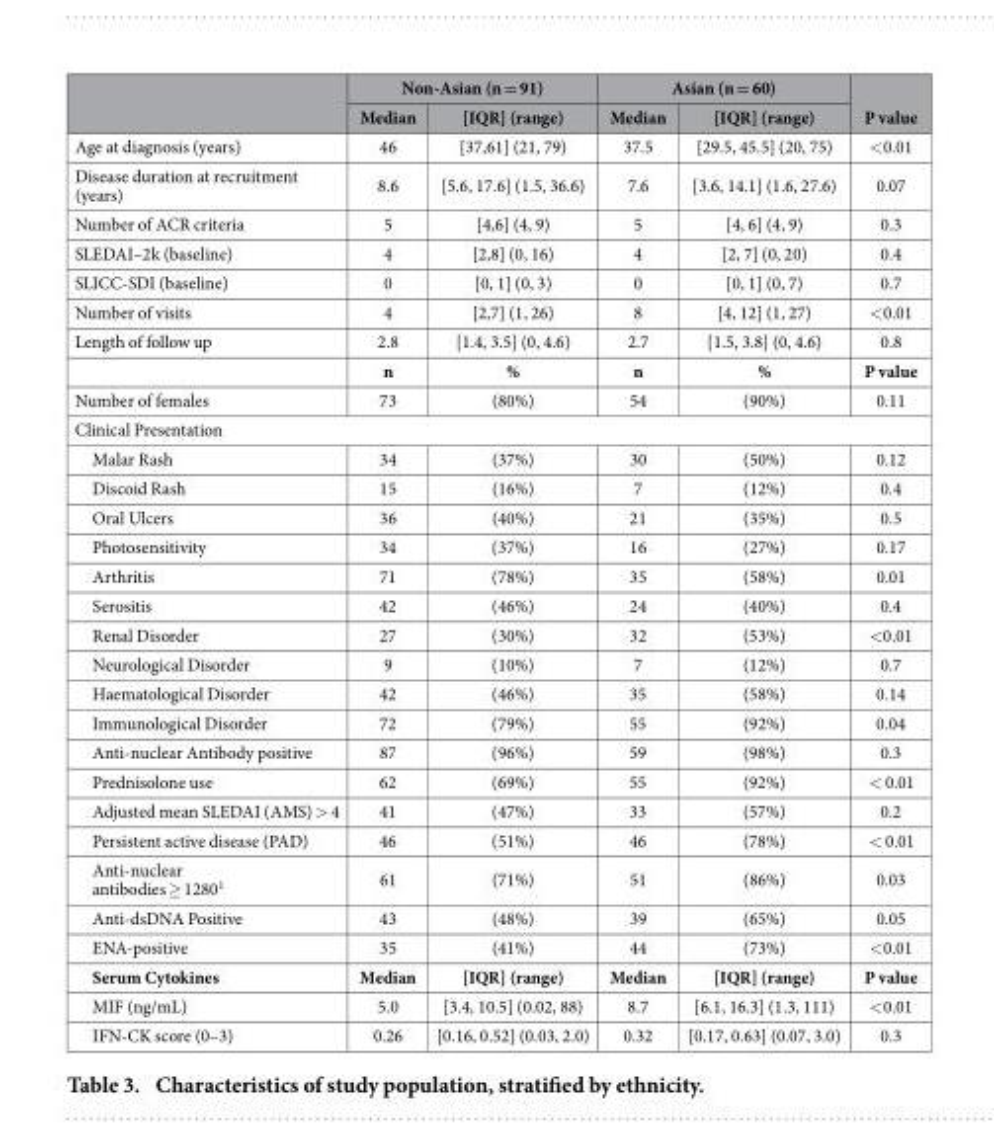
<table><thead><tr><td rowspan="2"></td><td colspan="2">Non-Asian (n = 91)</td><td colspan="2">Asian (n = 60)</td><td rowspan="2">P value</td></tr><tr><td>Median</td><td>[IQR] (range)</td><td>Median</td><td>[IQR] (range)</td></tr></thead><tbody><tr><td>Age at diagnosis (years)</td><td>46</td><td>[37,61] (21, 79)</td><td>37.5</td><td>[29.5, 45.5] (20, 75)</td><td>&lt; 0.01</td></tr><tr><td>Disease duration at recruitment (years)</td><td>8.6</td><td>[5.6, 17.6] (1.5, 36.6)</td><td>7.6</td><td>[3.6, 14.1] (1.6, 27.6)</td><td>0.07</td></tr><tr><td>Number of ACR criteria</td><td>5</td><td>[4,6] (4, 9)</td><td>5</td><td>[4, 6] (4, 9)</td><td>0.3</td></tr><tr><td>SLEDAI–2k (baseline)</td><td>4</td><td>[2,8] (0, 16)</td><td>4</td><td>[2, 7] (0, 20)</td><td>0.4</td></tr><tr><td>SLICC-SDI (baseline)</td><td>0</td><td>[0, 1] (0, 3)</td><td>0</td><td>[0, 1] (0, 7)</td><td>0.7</td></tr><tr><td>Number of visits</td><td>4</td><td>[2,7] (1, 26)</td><td>8</td><td>[4, 12] (1, 27)</td><td>&lt; 0.01</td></tr><tr><td rowspan="2">Length of follow up</td><td>2.8</td><td>[1.4, 3.5] (0, 4.6)</td><td>2.7</td><td>[1.5, 3.8] (0, 4.6)</td><td>0.8</td></tr><tr><td>n</td><td>%</td><td>n</td><td>%</td><td>P value</td></tr><tr><td>Number of females</td><td>73</td><td>(80%)</td><td>54</td><td>(90%)</td><td>0.11</td></tr><tr><td colspan="6">Clinical Presentation</td></tr><tr><td>Malar Rash</td><td>34</td><td>(37%)</td><td>30</td><td>(50%)</td><td>0.12</td></tr><tr><td>Discoid Rash</td><td>15</td><td>(16%)</td><td>7</td><td>(12%)</td><td>0.4</td></tr><tr><td>Oral Ulcers</td><td>36</td><td>(40%)</td><td>21</td><td>(35%)</td><td>0.5</td></tr><tr><td>Photosensitivity</td><td>34</td><td>(37%)</td><td>16</td><td>(27%)</td><td>0.17</td></tr><tr><td>Arthritis</td><td>71</td><td>(78%)</td><td>35</td><td>(58%)</td><td>0.01</td></tr><tr><td>Serositis</td><td>42</td><td>(46%)</td><td>24</td><td>(40%)</td><td>0.4</td></tr><tr><td>Renal Disorder</td><td>27</td><td>(30%)</td><td>32</td><td>(53%)</td><td>&lt; 0.01</td></tr><tr><td>Neurological Disorder</td><td>9</td><td>(10%)</td><td>7</td><td>(12%)</td><td>0.7</td></tr><tr><td>Haematological Disorder</td><td>42</td><td>(46%)</td><td>35</td><td>(58%)</td><td>0.14</td></tr><tr><td>Immunological Disorder</td><td>72</td><td>(79%)</td><td>55</td><td>(92%)</td><td>0.04</td></tr><tr><td>Anti-nuclear Antibody positive</td><td>87</td><td>(96%)</td><td>59</td><td>(98%)</td><td>0.3</td></tr><tr><td>Prednisolone use</td><td>62</td><td>(69%)</td><td>55</td><td>(92%)</td><td>&lt; 0.01</td></tr><tr><td>Adjusted mean SLEDAI (AMS) &gt; 4</td><td>41</td><td>(47%)</td><td>33</td><td>(57%)</td><td>0.2</td></tr><tr><td>Persistent active disease (PAD)</td><td>46</td><td>(51%)</td><td>46</td><td>(78%)</td><td>&lt; 0.01</td></tr><tr><td>Anti-nuclear antibodies ≥ 1280<sup>1</sup></td><td>61</td><td>(71%)</td><td>51</td><td>(86%)</td><td>0.03</td></tr><tr><td>Anti-dsDNA Positive</td><td>43</td><td>(48%)</td><td>39</td><td>(65%)</td><td>0.05</td></tr><tr><td>ENA-positive</td><td>35</td><td>(41%)</td><td>44</td><td>(73%)</td><td>&lt; 0.01</td></tr><tr><td>Serum Cytokines</td><td>Median</td><td>[IQR] (range)</td><td>Median</td><td>[IQR] (range)</td><td>P value</td></tr><tr><td>MIF (ng/mL)</td><td>5.0</td><td>[3.4, 10.5] (0.02, 88)</td><td>8.7</td><td>[6.1, 16.3] (1.3, 111)</td><td>&lt; 0.01</td></tr><tr><td>IFN-CK score (0–3)</td><td>0.26</td><td>[0.16, 0.52] (0.03, 2.0)</td><td>0.32</td><td>[0.17, 0.63] (0.07, 3.0)</td><td>0.3</td></tr></tbody></table>